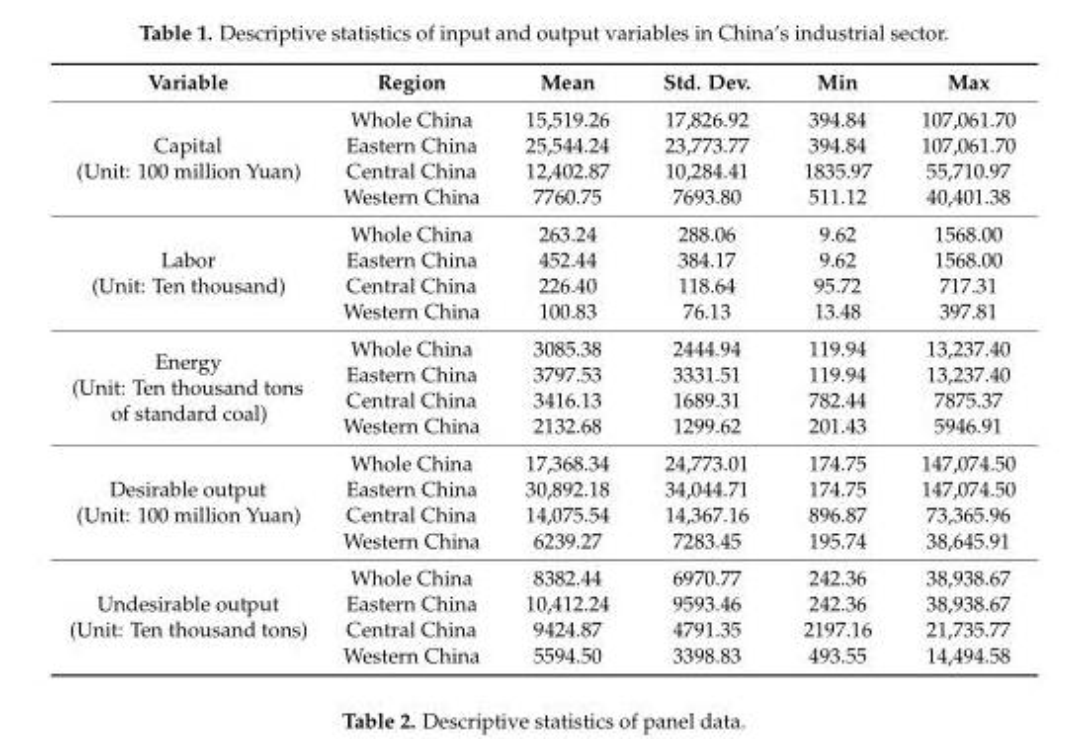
<table><thead><tr><td>Variable</td><td>Region</td><td>Mean</td><td>Std. Dev.</td><td>Min</td><td>Max</td></tr></thead><tbody><tr><td rowspan="4">Capital (Unit: 100 million Yuan)</td><td>Whole China</td><td>15,519.26</td><td>17,826.92</td><td>394.84</td><td>107,061.70</td></tr><tr><td>Eastern China</td><td>25,544.24</td><td>23,773.77</td><td>394.84</td><td>107,061.70</td></tr><tr><td>Central China</td><td>12,402.87</td><td>10,284.41</td><td>1835.97</td><td>55,710.97</td></tr><tr><td>Western China</td><td>7760.75</td><td>7693.80</td><td>511.12</td><td>40,401.38</td></tr><tr><td rowspan="4">Labor (Unit: Ten thousand)</td><td>Whole China</td><td>263.24</td><td>288.06</td><td>9.62</td><td>1568.00</td></tr><tr><td>Eastern China</td><td>452.44</td><td>384.17</td><td>9.62</td><td>1568.00</td></tr><tr><td>Central China</td><td>226.40</td><td>118.64</td><td>95.72</td><td>717.31</td></tr><tr><td>Western China</td><td>100.83</td><td>76.13</td><td>13.48</td><td>397.81</td></tr><tr><td rowspan="4">Energy (Unit: Ten thousand tons of standard coal)</td><td>Whole China</td><td>3085.38</td><td>2444.94</td><td>119.94</td><td>13,237.40</td></tr><tr><td>Eastern China</td><td>3797.53</td><td>3331.51</td><td>119.94</td><td>13,237.40</td></tr><tr><td>Central China</td><td>3416.13</td><td>1689.31</td><td>782.44</td><td>7875.37</td></tr><tr><td>Western China</td><td>2132.68</td><td>1299.62</td><td>201.43</td><td>5946.91</td></tr><tr><td rowspan="4">Desirable output (Unit: 100 million Yuan)</td><td>Whole China</td><td>17,368.34</td><td>24,773.01</td><td>174.75</td><td>147,074.50</td></tr><tr><td>Eastern China</td><td>30,892.18</td><td>34,044.71</td><td>174.75</td><td>147,074.50</td></tr><tr><td>Central China</td><td>14,075.54</td><td>14,367.16</td><td>896.87</td><td>73,365.96</td></tr><tr><td>Western China</td><td>6239.27</td><td>7283.45</td><td>195.74</td><td>38,645.91</td></tr><tr><td rowspan="4">Undesirable output (Unit: Ten thousand tons)</td><td>Whole China</td><td>8382.44</td><td>6970.77</td><td>242.36</td><td>38,938.67</td></tr><tr><td>Eastern China</td><td>10,412.24</td><td>9593.46</td><td>242.36</td><td>38,938.67</td></tr><tr><td>Central China</td><td>9424.87</td><td>4791.35</td><td>2197.16</td><td>21,735.77</td></tr><tr><td>Western China</td><td>5594.50</td><td>3398.83</td><td>493.55</td><td>14,494.58</td></tr></tbody></table>